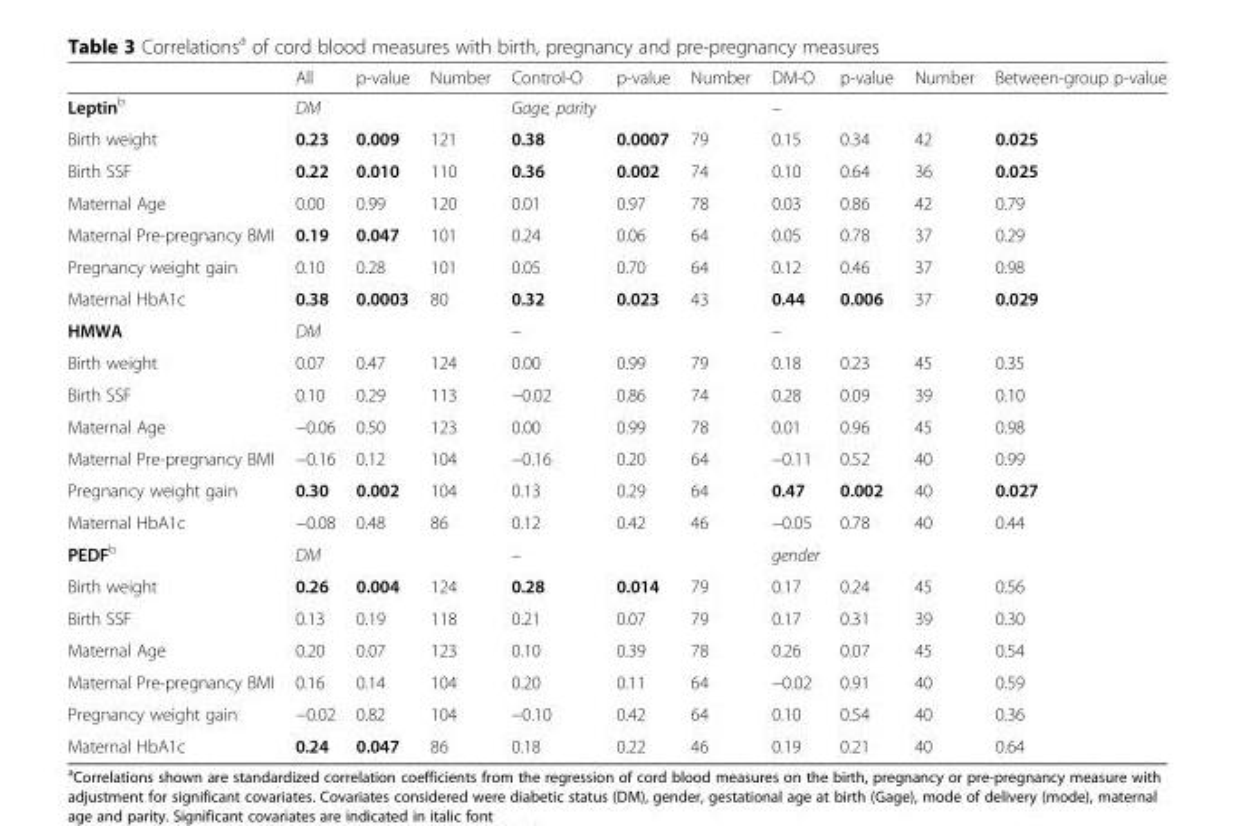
<table><thead><tr><td></td><td>All</td><td>p-value</td><td>Number</td><td>Control-O</td><td>p-value</td><td>Number</td><td>DM-O</td><td>p-value</td><td>Number</td><td>Between-group p-value</td></tr></thead><tbody><tr><td>Leptin<sup>b</sup></td><td>DM</td><td></td><td></td><td>Gage, parity</td><td></td><td></td><td>–</td><td></td><td></td><td></td></tr><tr><td>Birth weight</td><td>0.23</td><td>0.009</td><td>121</td><td>0.38</td><td>0.0007</td><td>79</td><td>0.15</td><td>0.34</td><td>42</td><td>0.025</td></tr><tr><td>Birth SSF</td><td>0.22</td><td>0.010</td><td>110</td><td>0.36</td><td>0.002</td><td>74</td><td>0.10</td><td>0.64</td><td>36</td><td>0.025</td></tr><tr><td>Maternal Age</td><td>0.00</td><td>0.99</td><td>120</td><td>0.01</td><td>0.97</td><td>78</td><td>0.03</td><td>0.86</td><td>42</td><td>0.79</td></tr><tr><td>Maternal Pre-pregnancy BMI</td><td>0.19</td><td>0.047</td><td>101</td><td>0.24</td><td>0.06</td><td>64</td><td>0.05</td><td>0.78</td><td>37</td><td>0.29</td></tr><tr><td>Pregnancy weight gain</td><td>0.10</td><td>0.28</td><td>101</td><td>0.05</td><td>0.70</td><td>64</td><td>0.12</td><td>0.46</td><td>37</td><td>0.98</td></tr><tr><td>Maternal HbA1c</td><td>0.38</td><td>0.0003</td><td>80</td><td>0.32</td><td>0.023</td><td>43</td><td>0.44</td><td>0.006</td><td>37</td><td>0.029</td></tr><tr><td>HMWA</td><td>DM</td><td></td><td></td><td>–</td><td></td><td></td><td>–</td><td></td><td></td><td></td></tr><tr><td>Birth weight</td><td>0.07</td><td>0.47</td><td>124</td><td>0.00</td><td>0.99</td><td>79</td><td>0.18</td><td>0.23</td><td>45</td><td>0.35</td></tr><tr><td>Birth SSF</td><td>0.10</td><td>0.29</td><td>113</td><td>−0.02</td><td>0.86</td><td>74</td><td>0.28</td><td>0.09</td><td>39</td><td>0.10</td></tr><tr><td>Maternal Age</td><td>−0.06</td><td>0.50</td><td>123</td><td>0.00</td><td>0.99</td><td>78</td><td>0.01</td><td>0.96</td><td>45</td><td>0.98</td></tr><tr><td>Maternal Pre-pregnancy BMI</td><td>−0.16</td><td>0.12</td><td>104</td><td>−0.16</td><td>0.20</td><td>64</td><td>−0.11</td><td>0.52</td><td>40</td><td>0.99</td></tr><tr><td>Pregnancy weight gain</td><td>0.30</td><td>0.002</td><td>104</td><td>0.13</td><td>0.29</td><td>64</td><td>0.47</td><td>0.002</td><td>40</td><td>0.027</td></tr><tr><td>Maternal HbA1c</td><td>−0.08</td><td>0.48</td><td>86</td><td>0.12</td><td>0.42</td><td>46</td><td>−0.05</td><td>0.78</td><td>40</td><td>0.44</td></tr><tr><td>PEDF<sup>b</sup></td><td>DM</td><td></td><td></td><td>–</td><td></td><td></td><td>gender</td><td></td><td></td><td></td></tr><tr><td>Birth weight</td><td>0.26</td><td>0.004</td><td>124</td><td>0.28</td><td>0.014</td><td>79</td><td>0.17</td><td>0.24</td><td>45</td><td>0.56</td></tr><tr><td>Birth SSF</td><td>0.13</td><td>0.19</td><td>118</td><td>0.21</td><td>0.07</td><td>79</td><td>0.17</td><td>0.31</td><td>39</td><td>0.30</td></tr><tr><td>Maternal Age</td><td>0.20</td><td>0.07</td><td>123</td><td>0.10</td><td>0.39</td><td>78</td><td>0.26</td><td>0.07</td><td>45</td><td>0.54</td></tr><tr><td>Maternal Pre-pregnancy BMI</td><td>0.16</td><td>0.14</td><td>104</td><td>0.20</td><td>0.11</td><td>64</td><td>−0.02</td><td>0.91</td><td>40</td><td>0.59</td></tr><tr><td>Pregnancy weight gain</td><td>−0.02</td><td>0.82</td><td>104</td><td>−0.10</td><td>0.42</td><td>64</td><td>0.10</td><td>0.54</td><td>40</td><td>0.36</td></tr><tr><td>Maternal HbA1c</td><td>0.24</td><td>0.047</td><td>86</td><td>0.18</td><td>0.22</td><td>46</td><td>0.19</td><td>0.21</td><td>40</td><td>0.64</td></tr></tbody></table>